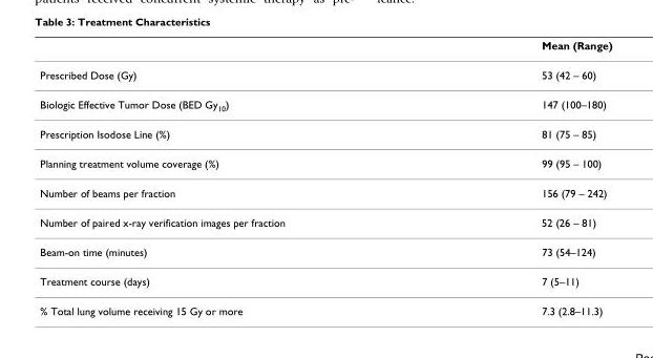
<table><thead><tr><td></td><td>Mean (Range)</td></tr></thead><tbody><tr><td>Prescribed Dose (Gy)</td><td>53 (42 – 60)</td></tr><tr><td>Biologic Effective Tumor Dose (BED Gy<sub>10</sub>)</td><td>147 (100–180)</td></tr><tr><td>Prescription Isodose Line (%)</td><td>81 (75 – 85)</td></tr><tr><td>Planning treatment volume coverage (%)</td><td>99 (95 – 100)</td></tr><tr><td>Number of beams per fraction</td><td>156 (79 – 242)</td></tr><tr><td>Number of paired x-ray verification images per fraction</td><td>52 (26 – 81)</td></tr><tr><td>Beam-on time (minutes)</td><td>73 (54–124)</td></tr><tr><td>Treatment course (days)</td><td>7 (5–11)</td></tr><tr><td>% Total lung volume receiving 15 Gy or more</td><td>7.3 (2.8–11.3)</td></tr></tbody></table>